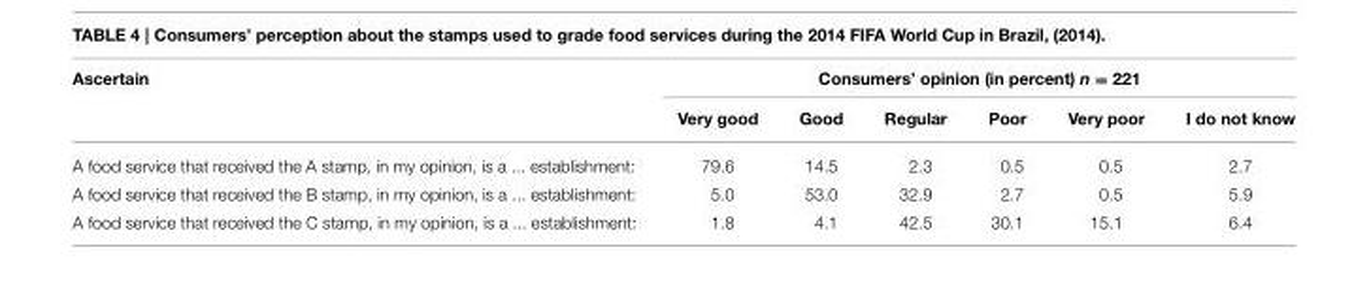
<table><thead><tr><td rowspan="2">Ascertain</td><td colspan="6">Consumers’ opinion (in percent) n = 221</td></tr><tr><td>Very good</td><td>Good</td><td>Regular</td><td>Poor</td><td>Very poor</td><td>I do not know</td></tr></thead><tbody><tr><td>A food service that received the A stamp, in my opinion, is a ... establishment:</td><td>79.6</td><td>14.5</td><td>2.3</td><td>0.5</td><td>0.5</td><td>2.7</td></tr><tr><td>A food service that received the B stamp, in my opinion, is a ... establishment:</td><td>5.0</td><td>53.0</td><td>32.9</td><td>2.7</td><td>0.5</td><td>5.9</td></tr><tr><td>A food service that received the C stamp, in my opinion, is a ... establishment:</td><td>1.8</td><td>4.1</td><td>42.5</td><td>30.1</td><td>15.1</td><td>6.4</td></tr></tbody></table>